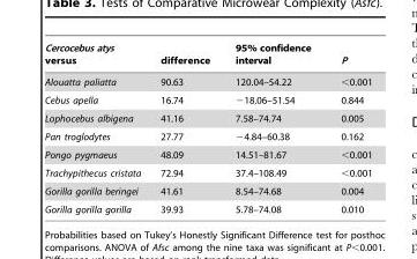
<table><thead><tr><td>Cercocebus atys versus</td><td>difference</td><td>95% confidence interval</td><td>P</td></tr></thead><tbody><tr><td>Alouatta paliatta</td><td>90.63</td><td>120.04–54.22</td><td>&lt;0.001</td></tr><tr><td>Cebus apella</td><td>16.74</td><td>−18.06–51.54</td><td>0.844</td></tr><tr><td>Lophocebus albigena</td><td>41.16</td><td>7.58–74.74</td><td>0.005</td></tr><tr><td>Pan troglodytes</td><td>27.77</td><td>−4.84–60.38</td><td>0.162</td></tr><tr><td>Pongo pygmaeus</td><td>48.09</td><td>14.51–81.67</td><td>&lt;0.001</td></tr><tr><td>Trachypithecus cristata</td><td>72.94</td><td>37.4–108.49</td><td>&lt;0.001</td></tr><tr><td>Gorilla gorilla beringei</td><td>41.61</td><td>8.54–74.68</td><td>0.004</td></tr><tr><td>Gorilla gorilla gorilla</td><td>39.93</td><td>5.78–74.08</td><td>0.010</td></tr></tbody></table>